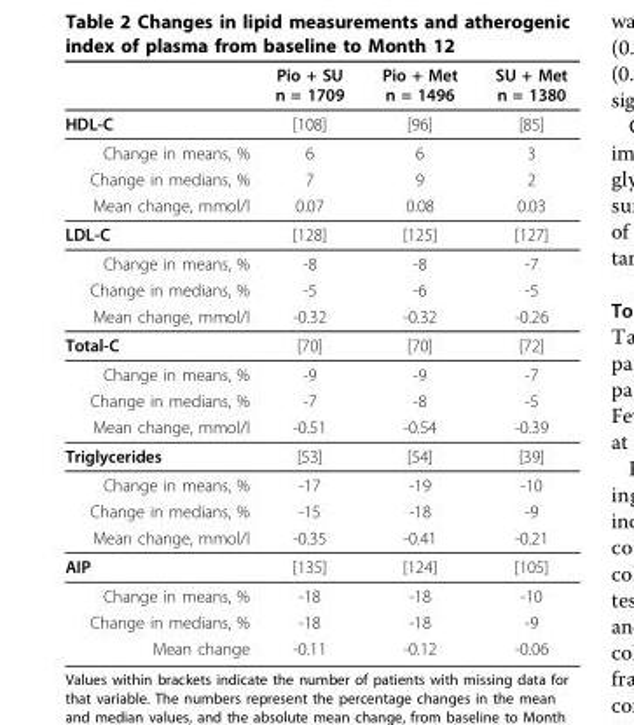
<table><thead><tr><td></td><td>Pio + SU n = 1709</td><td>Pio + Met n = 1496</td><td>SU + Met n = 1380</td></tr></thead><tbody><tr><td>HDL-C</td><td>[108]</td><td>[96]</td><td>[85]</td></tr><tr><td>Change in means, %</td><td>6</td><td>6</td><td>3</td></tr><tr><td>Change in medians, %</td><td>7</td><td>9</td><td>2</td></tr><tr><td>Mean change, mmol/l</td><td>0.07</td><td>0.08</td><td>0.03</td></tr><tr><td>LDL-C</td><td>[128]</td><td>[125]</td><td>[127]</td></tr><tr><td>Change in means, %</td><td>-8</td><td>-8</td><td>-7</td></tr><tr><td>Change in medians, %</td><td>-5</td><td>-6</td><td>-5</td></tr><tr><td>Mean change, mmol/l</td><td>-0.32</td><td>-0.32</td><td>-0.26</td></tr><tr><td>Total-C</td><td>[70]</td><td>[70]</td><td>[72]</td></tr><tr><td>Change in means, %</td><td>-9</td><td>-9</td><td>-7</td></tr><tr><td>Change in medians, %</td><td>-7</td><td>-8</td><td>-5</td></tr><tr><td>Mean change, mmol/l</td><td>-0.51</td><td>-0.54</td><td>-0.39</td></tr><tr><td>Triglycerides</td><td>[53]</td><td>[54]</td><td>[39]</td></tr><tr><td>Change in means, %</td><td>-17</td><td>-19</td><td>-10</td></tr><tr><td>Change in medians, %</td><td>-15</td><td>-18</td><td>-9</td></tr><tr><td>Mean change, mmol/l</td><td>-0.35</td><td>-0.41</td><td>-0.21</td></tr><tr><td>AIP</td><td>[135]</td><td>[124]</td><td>[105]</td></tr><tr><td>Change in means, %</td><td>-18</td><td>-18</td><td>-10</td></tr><tr><td>Change in medians, %</td><td>-18</td><td>-18</td><td>-9</td></tr><tr><td>Mean change</td><td>-0.11</td><td>-0.12</td><td>-0.06</td></tr></tbody></table>